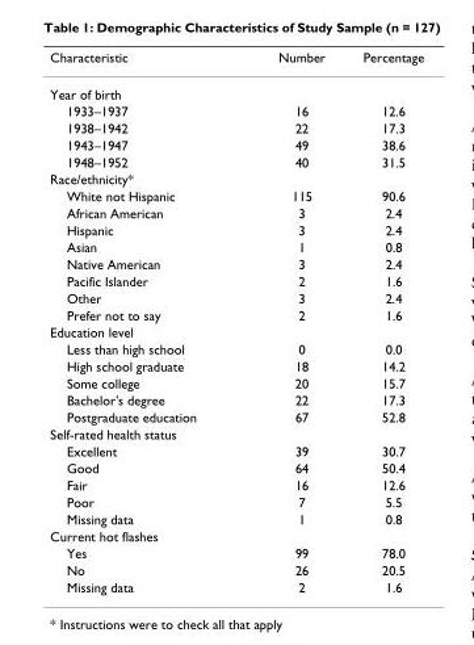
<table><thead><tr><td>Characteristic</td><td>Number</td><td>Percentage</td></tr></thead><tbody><tr><td colspan="3">Year of birth</td></tr><tr><td>1933–1937</td><td>16</td><td>12.6</td></tr><tr><td>1938–1942</td><td>22</td><td>17.3</td></tr><tr><td>1943–1947</td><td>49</td><td>38.6</td></tr><tr><td>1948–1952</td><td>40</td><td>31.5</td></tr><tr><td colspan="3">Race/ethnicity*</td></tr><tr><td>White not Hispanic</td><td>115</td><td>90.6</td></tr><tr><td>African American</td><td>3</td><td>2.4</td></tr><tr><td>Hispanic</td><td>3</td><td>2.4</td></tr><tr><td>Asian</td><td>1</td><td>0.8</td></tr><tr><td>Native American</td><td>3</td><td>2.4</td></tr><tr><td>Pacific Islander</td><td>2</td><td>1.6</td></tr><tr><td>Other</td><td>3</td><td>2.4</td></tr><tr><td>Prefer not to say</td><td>2</td><td>1.6</td></tr><tr><td colspan="3">Education level</td></tr><tr><td>Less than high school</td><td>0</td><td>0.0</td></tr><tr><td>High school graduate</td><td>18</td><td>14.2</td></tr><tr><td>Some college</td><td>20</td><td>15.7</td></tr><tr><td>Bachelor&#x27;s degree</td><td>22</td><td>17.3</td></tr><tr><td>Postgraduate education</td><td>67</td><td>52.8</td></tr><tr><td colspan="3">Self-rated health status</td></tr><tr><td>Excellent</td><td>39</td><td>30.7</td></tr><tr><td>Good</td><td>64</td><td>50.4</td></tr><tr><td>Fair</td><td>16</td><td>12.6</td></tr><tr><td>Poor</td><td>7</td><td>5.5</td></tr><tr><td>Missing data</td><td>1</td><td>0.8</td></tr><tr><td colspan="3">Current hot flashes</td></tr><tr><td>Yes</td><td>99</td><td>78.0</td></tr><tr><td>No</td><td>26</td><td>20.5</td></tr><tr><td>Missing data</td><td>2</td><td>1.6</td></tr></tbody></table>